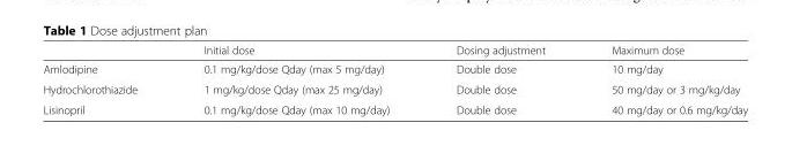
<table><thead><tr><td></td><td>Initial dose</td><td>Dosing adjustment</td><td>Maximum dose</td></tr></thead><tbody><tr><td>Amlodipine</td><td>0.1 mg/kg/dose Qday (max 5 mg/day)</td><td>Double dose</td><td>10 mg/day</td></tr><tr><td>Hydrochlorothiazide</td><td>1 mg/kg/dose Qday (max 25 mg/day)</td><td>Double dose</td><td>50 mg/day or 3 mg/kg/day</td></tr><tr><td>Lisinopril</td><td>0.1 mg/kg/dose Qday (max 10 mg/day)</td><td>Double dose</td><td>40 mg/day or 0.6 mg/kg/day</td></tr></tbody></table>